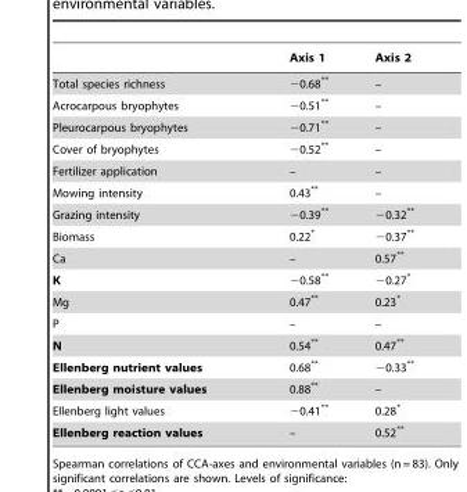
<table><thead><tr><td></td><td>Axis 1</td><td>Axis 2</td></tr></thead><tbody><tr><td>Total species richness</td><td>−0.68**</td><td>–</td></tr><tr><td>Acrocarpous bryophytes</td><td>−0.51**</td><td>–</td></tr><tr><td>Pleurocarpous bryophytes</td><td>−0.71**</td><td>–</td></tr><tr><td>Cover of bryophytes</td><td>−0.52**</td><td>–</td></tr><tr><td>Fertilizer application</td><td>–</td><td>–</td></tr><tr><td>Mowing intensity</td><td>0.43**</td><td>–</td></tr><tr><td>Grazing intensity</td><td>−0.39**</td><td>−0.32**</td></tr><tr><td>Biomass</td><td>0.22*</td><td>−0.37**</td></tr><tr><td>Ca</td><td>–</td><td>0.57**</td></tr><tr><td>K</td><td>−0.58**</td><td>−0.27*</td></tr><tr><td>Mg</td><td>0.47**</td><td>0.23*</td></tr><tr><td>P</td><td>–</td><td>–</td></tr><tr><td>N</td><td>0.54**</td><td>0.47**</td></tr><tr><td>Ellenberg nutrient values</td><td>0.68**</td><td>−0.33**</td></tr><tr><td>Ellenberg moisture values</td><td>0.88**</td><td>–</td></tr><tr><td>Ellenberg light values</td><td>−0.41**</td><td>0.28*</td></tr><tr><td>Ellenberg reaction values</td><td>–</td><td>0.52**</td></tr></tbody></table>